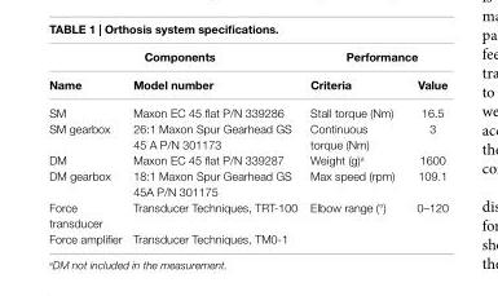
<table><thead><tr><td colspan="2">components</td><td colspan="2">Performance</td></tr><tr><td>name</td><td>Model number</td><td>criteria</td><td>Value</td></tr></thead><tbody><tr><td>SM</td><td>Maxon EC 45 flat P/N 339286</td><td>Stall torque (Nm)</td><td>16.5</td></tr><tr><td>SM gearbox</td><td>26:1 Maxon Spur Gearhead GS 45 A P/N 301173</td><td>Continuous torque (Nm)</td><td>3</td></tr><tr><td>DM</td><td>Maxon EC 45 flat P/N 339287</td><td>Weight (g)<sup>a</sup></td><td>1600</td></tr><tr><td>DM gearbox</td><td>18:1 Maxon Spur Gearhead GS 45A P/N 301175</td><td>Max speed (rpm)</td><td>109.1</td></tr><tr><td>Force transducer</td><td>Transducer Techniques, TRT-100</td><td>Elbow range (°)</td><td>0–120</td></tr><tr><td>Force amplifier</td><td>Transducer Techniques, TM0-1</td><td></td><td></td></tr></tbody></table>